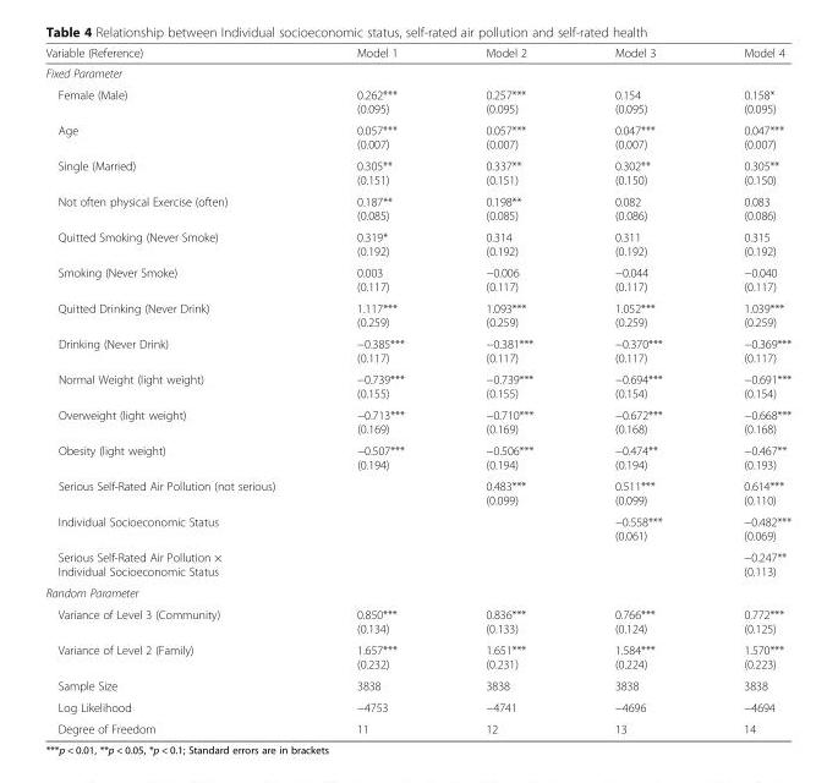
<table><thead><tr><td>Variable (Reference)</td><td>Model 1</td><td>Model 2</td><td>Model 3</td><td>Model 4</td></tr></thead><tbody><tr><td colspan="5">Fixed Parameter</td></tr><tr><td>Female (Male)</td><td>0.262*** (0.095)</td><td>0.257*** (0.095)</td><td>0.154 (0.095)</td><td>0.158* (0.095)</td></tr><tr><td>Age</td><td>0.057*** (0.007)</td><td>0.057*** (0.007)</td><td>0.047*** (0.007)</td><td>0.047*** (0.007)</td></tr><tr><td>Single (Married)</td><td>0.305** (0.151)</td><td>0.337** (0.151)</td><td>0.302** (0.150)</td><td>0.305** (0.150)</td></tr><tr><td>Not often physical Exercise (often)</td><td>0.187** (0.085)</td><td>0.198** (0.085)</td><td>0.082 (0.086)</td><td>0.083 (0.086)</td></tr><tr><td>Quitted Smoking (Never Smoke)</td><td>0.319* (0.192)</td><td>0.314 (0.192)</td><td>0.311 (0.192)</td><td>0.315 (0.192)</td></tr><tr><td>Smoking (Never Smoke)</td><td>0.003 (0.117)</td><td>−0.006 (0.117)</td><td>−0.044 (0.117)</td><td>−0.040 (0.117)</td></tr><tr><td>Quitted Drinking (Never Drink)</td><td>1.117*** (0.259)</td><td>1.093*** (0.259)</td><td>1.052*** (0.259)</td><td>1.039*** (0.259)</td></tr><tr><td>Drinking (Never Drink)</td><td>−0.385*** (0.117)</td><td>−0.381*** (0.117)</td><td>−0.370*** (0.117)</td><td>−0.369*** (0.117)</td></tr><tr><td>Normal Weight (light weight)</td><td>−0.739*** (0.155)</td><td>−0.739*** (0.155)</td><td>−0.694*** (0.154)</td><td>−0.691*** (0.154)</td></tr><tr><td>Overweight (light weight)</td><td>−0.713*** (0.169)</td><td>−0.710*** (0.169)</td><td>−0.672*** (0.168)</td><td>−0.668*** (0.168)</td></tr><tr><td>Obesity (light weight)</td><td>−0.507*** (0.194)</td><td>−0.506*** (0.194)</td><td>−0.474** (0.194)</td><td>−0.467** (0.193)</td></tr><tr><td>Serious Self-Rated Air Pollution (not serious)</td><td></td><td>0.483*** (0.099)</td><td>0.511*** (0.099)</td><td>0.614*** (0.110)</td></tr><tr><td>Individual Socioeconomic Status</td><td></td><td></td><td>−0.558*** (0.061)</td><td>−0.482*** (0.069)</td></tr><tr><td>Serious Self-Rated Air Pollution × Individual Socioeconomic Status</td><td></td><td></td><td></td><td>−0.247** (0.113)</td></tr><tr><td colspan="5">Random Parameter</td></tr><tr><td>Variance of Level 3 (Community)</td><td>0.850*** (0.134)</td><td>0.836*** (0.133)</td><td>0.766*** (0.124)</td><td>0.772*** (0.125)</td></tr><tr><td>Variance of Level 2 (Family)</td><td>1.657*** (0.232)</td><td>1.651*** (0.231)</td><td>1.584*** (0.224)</td><td>1.570*** (0.223)</td></tr><tr><td>Sample Size</td><td>3838</td><td>3838</td><td>3838</td><td>3838</td></tr><tr><td>Log Likelihood</td><td>−4753</td><td>−4741</td><td>−4696</td><td>−4694</td></tr><tr><td>Degree of Freedom</td><td>11</td><td>12</td><td>13</td><td>14</td></tr></tbody></table>